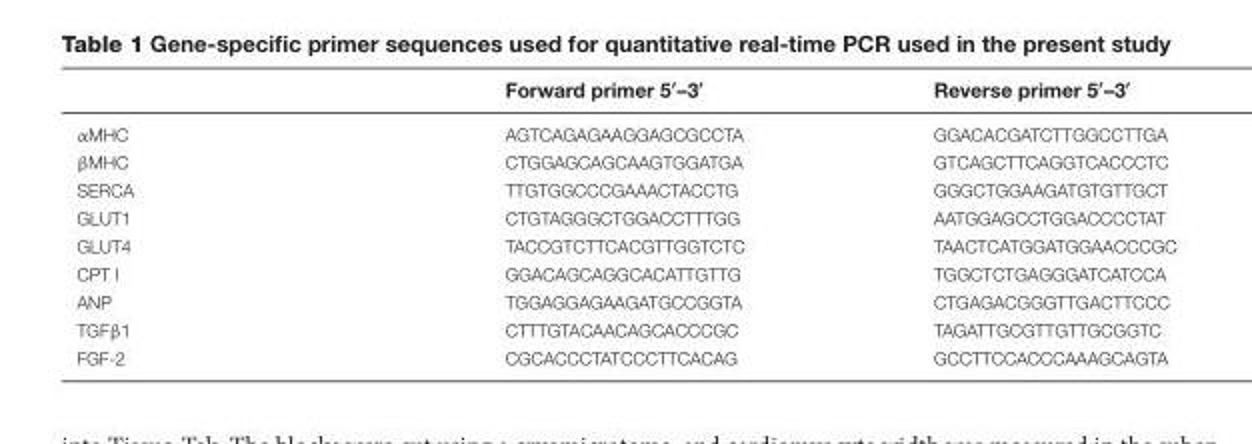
<table><thead><tr><td></td><td>Forward primer 5′–3′</td><td>Reverse primer 5′–3′</td></tr></thead><tbody><tr><td>αMHC</td><td>AGTCAGAGAAGGAGCGCCTA</td><td>GGACACGATCTTGGCCTTGA</td></tr><tr><td>βMHC</td><td>CTGGAGCAGCAAGTGGATGA</td><td>GTCAGCTTCAGGTCACCCTC</td></tr><tr><td>SERCA</td><td>TTGTGGCCCGAAACTACCTG</td><td>GGGCTGGAAGATGTGTTGCT</td></tr><tr><td>GLUT1</td><td>CTGTAGGGCTGGACCTTTGG</td><td>AATGGAGCCTGGACCCCTAT</td></tr><tr><td>GLUT4</td><td>TACCGTCTTCACGTTGGTCTC</td><td>TAACTCATGGATGGAACCCGC</td></tr><tr><td>CPT I</td><td>GGACAGCAGGCACATTGTTG</td><td>TGGCTCTGAGGGATCATCCA</td></tr><tr><td>ANP</td><td>TGGAGGAGAAGATGCCGGTA</td><td>CTGAGACGGGTTGACTTCCC</td></tr><tr><td>TGFβ1</td><td>CTTTGTACAACAGCACCCGC</td><td>TAGATTGCGTTGTTGCGGTC</td></tr><tr><td>FGF-2</td><td>CGCACCCTATCCCTTCACAG</td><td>GCCTTCCACCCAAAGCAGTA</td></tr></tbody></table>